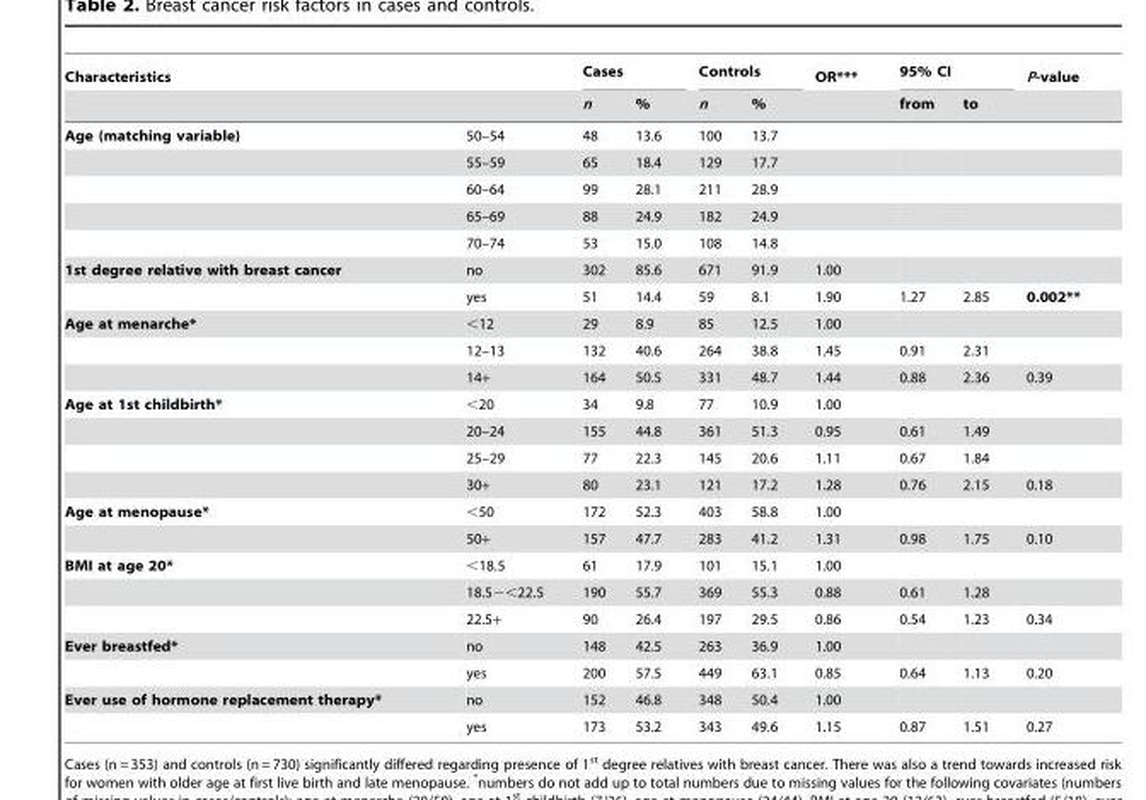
<table><thead><tr><td colspan="2">Characteristics</td><td colspan="2">Cases</td><td colspan="2">Controls</td><td rowspan="2">OR***</td><td colspan="2">95% CI</td><td rowspan="2">P-value</td></tr><tr><td></td><td></td><td>n</td><td>%</td><td>n</td><td>%</td><td>from</td><td>to</td></tr></thead><tbody><tr><td rowspan="5">Age (matching variable)</td><td>50–54</td><td>48</td><td>13.6</td><td>100</td><td>13.7</td><td></td><td></td><td></td><td></td></tr><tr><td>55–59</td><td>65</td><td>18.4</td><td>129</td><td>17.7</td><td></td><td></td><td></td><td></td></tr><tr><td>60–64</td><td>99</td><td>28.1</td><td>211</td><td>28.9</td><td></td><td></td><td></td><td></td></tr><tr><td>65–69</td><td>88</td><td>24.9</td><td>182</td><td>24.9</td><td></td><td></td><td></td><td></td></tr><tr><td>70–74</td><td>53</td><td>15.0</td><td>108</td><td>14.8</td><td></td><td></td><td></td><td></td></tr><tr><td rowspan="2">1st degree relative with breast cancer</td><td>no</td><td>302</td><td>85.6</td><td>671</td><td>91.9</td><td>1.00</td><td></td><td></td><td></td></tr><tr><td>yes</td><td>51</td><td>14.4</td><td>59</td><td>8.1</td><td>1.90</td><td>1.27</td><td>2.85</td><td>0.002**</td></tr><tr><td rowspan="3">Age at menarche*</td><td>&lt;12</td><td>29</td><td>8.9</td><td>85</td><td>12.5</td><td>1.00</td><td></td><td></td><td></td></tr><tr><td>12–13</td><td>132</td><td>40.6</td><td>264</td><td>38.8</td><td>1.45</td><td>0.91</td><td>2.31</td><td></td></tr><tr><td>14+</td><td>164</td><td>50.5</td><td>331</td><td>48.7</td><td>1.44</td><td>0.88</td><td>2.36</td><td>0.39</td></tr><tr><td rowspan="4">Age at 1st childbirth*</td><td>&lt;20</td><td>34</td><td>9.8</td><td>77</td><td>10.9</td><td>1.00</td><td></td><td></td><td></td></tr><tr><td>20–24</td><td>155</td><td>44.8</td><td>361</td><td>51.3</td><td>0.95</td><td>0.61</td><td>1.49</td><td></td></tr><tr><td>25–29</td><td>77</td><td>22.3</td><td>145</td><td>20.6</td><td>1.11</td><td>0.67</td><td>1.84</td><td></td></tr><tr><td>30+</td><td>80</td><td>23.1</td><td>121</td><td>17.2</td><td>1.28</td><td>0.76</td><td>2.15</td><td>0.18</td></tr><tr><td rowspan="2">Age at menopause*</td><td>&lt;50</td><td>172</td><td>52.3</td><td>403</td><td>58.8</td><td>1.00</td><td></td><td></td><td></td></tr><tr><td>50+</td><td>157</td><td>47.7</td><td>283</td><td>41.2</td><td>1.31</td><td>0.98</td><td>1.75</td><td>0.10</td></tr><tr><td rowspan="3">BMI at age 20*</td><td>&lt;18.5</td><td>61</td><td>17.9</td><td>101</td><td>15.1</td><td>1.00</td><td></td><td></td><td></td></tr><tr><td>18.5−&lt;22.5</td><td>190</td><td>55.7</td><td>369</td><td>55.3</td><td>0.88</td><td>0.61</td><td>1.28</td><td></td></tr><tr><td>22.5+</td><td>90</td><td>26.4</td><td>197</td><td>29.5</td><td>0.86</td><td>0.54</td><td>1.23</td><td>0.34</td></tr><tr><td rowspan="2">Ever breastfed*</td><td>no</td><td>148</td><td>42.5</td><td>263</td><td>36.9</td><td>1.00</td><td></td><td></td><td></td></tr><tr><td>yes</td><td>200</td><td>57.5</td><td>449</td><td>63.1</td><td>0.85</td><td>0.64</td><td>1.13</td><td>0.20</td></tr><tr><td rowspan="2">Ever use of hormone replacement therapy*</td><td>no</td><td>152</td><td>46.8</td><td>348</td><td>50.4</td><td>1.00</td><td></td><td></td><td></td></tr><tr><td>yes</td><td>173</td><td>53.2</td><td>343</td><td>49.6</td><td>1.15</td><td>0.87</td><td>1.51</td><td>0.27</td></tr></tbody></table>